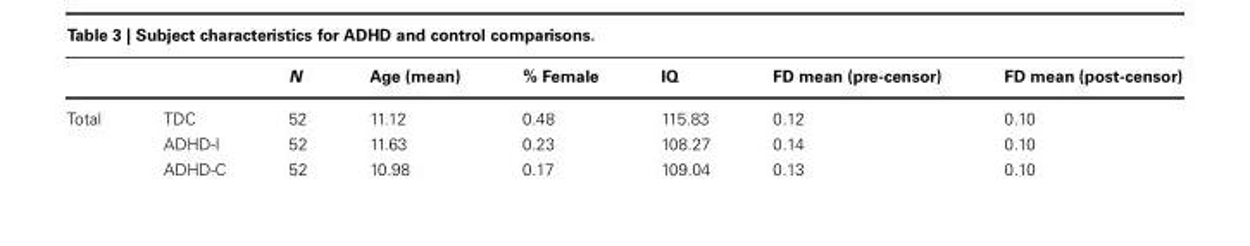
<table><thead><tr><td></td><td></td><td>N</td><td>Age (mean)</td><td>% Female</td><td>IQ</td><td>FD mean (pre-censor)</td><td>FD mean (post-censor)</td></tr></thead><tbody><tr><td rowspan="3">Total</td><td>TDC</td><td>52</td><td>11.12</td><td>0.48</td><td>115.83</td><td>0.12</td><td>0.10</td></tr><tr><td>ADHD-I</td><td>52</td><td>11.63</td><td>0.23</td><td>108.27</td><td>0.14</td><td>0.10</td></tr><tr><td>ADHD-C</td><td>52</td><td>10.98</td><td>0.17</td><td>109.04</td><td>0.13</td><td>0.10</td></tr></tbody></table>